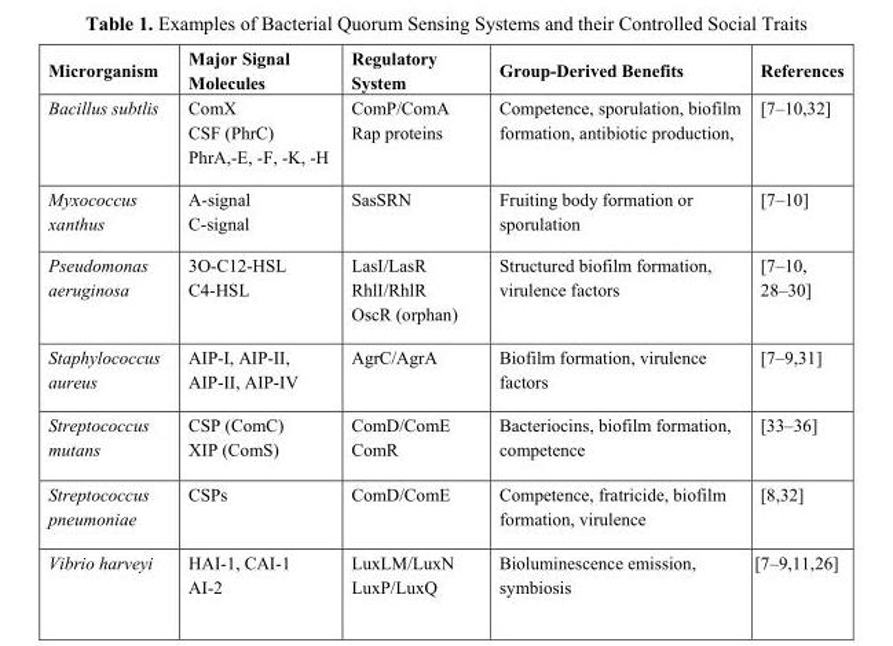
<table><thead><tr><td>Microrganism</td><td>Major Signal Molecules</td><td>Regulatory System</td><td>Group-Derived Benefits</td><td>References</td></tr></thead><tbody><tr><td>Bacillus subtlis</td><td>ComX CSF (PhrC) PhrA,-E, -F, -K, -H</td><td>ComP/ComA Rap proteins</td><td>Competence, sporulation, biofilm formation, antibiotic production,</td><td>[7–10,32]</td></tr><tr><td>Myxococcus xanthus</td><td>A-signal C-signal</td><td>SasSRN</td><td>Fruiting body formation or sporulation</td><td>[7–10]</td></tr><tr><td>Pseudomonas aeruginosa</td><td>3O-C12-HSL C4-HSL</td><td>LasI/LasR RhlI/RhlR OscR (orphan)</td><td>Structured biofilm formation, virulence factors</td><td>[7–10, 28–30]</td></tr><tr><td>Staphylococcus aureus</td><td>AIP-I, AIP-II, AIP-II, AIP-IV</td><td>AgrC/AgrA</td><td>Biofilm formation, virulence factors</td><td>[7–9,31]</td></tr><tr><td>Streptococcus mutans</td><td>CSP (ComC) XIP (ComS)</td><td>ComD/ComE ComR</td><td>Bacteriocins, biofilm formation, competence</td><td>[33–36]</td></tr><tr><td>Streptococcus pneumoniae</td><td>CSPs</td><td>ComD/ComE</td><td>Competence, fratricide, biofilm formation, virulence</td><td>[8,32]</td></tr><tr><td>Vibrio harveyi</td><td>HAI-1, CAI-1 AI-2</td><td>LuxLM/LuxN LuxP/LuxQ</td><td>Bioluminescence emission, symbiosis</td><td>[7–9,11,26]</td></tr></tbody></table>